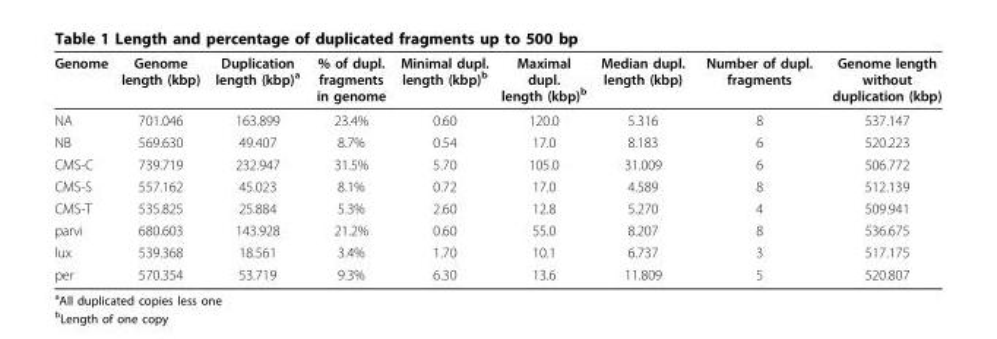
<table><thead><tr><td>Genome</td><td>Genome length (kbp)</td><td>Duplication length (kbp)<sup>a</sup></td><td>% of dupl. fragments in genome</td><td>Minimal dupl. length (kbp)<sup>b</sup></td><td>Maximal dupl. length (kbp)<sup>b</sup></td><td>Median dupl. length (kbp)</td><td>Number of dupl. fragments</td><td>Genome length without duplication (kbp)</td></tr></thead><tbody><tr><td>NA</td><td>701.046</td><td>163.899</td><td>23.4%</td><td>0.60</td><td>120.0</td><td>5.316</td><td>8</td><td>537.147</td></tr><tr><td>NB</td><td>569.630</td><td>49.407</td><td>8.7%</td><td>0.54</td><td>17.0</td><td>8.183</td><td>6</td><td>520.223</td></tr><tr><td>CMS-C</td><td>739.719</td><td>232.947</td><td>31.5%</td><td>5.70</td><td>105.0</td><td>31.009</td><td>6</td><td>506.772</td></tr><tr><td>CMS-S</td><td>557.162</td><td>45.023</td><td>8.1%</td><td>0.72</td><td>17.0</td><td>4.589</td><td>8</td><td>512.139</td></tr><tr><td>CMS-T</td><td>535.825</td><td>25.884</td><td>5.3%</td><td>2.60</td><td>12.8</td><td>5.270</td><td>4</td><td>509.941</td></tr><tr><td>parvi</td><td>680.603</td><td>143.928</td><td>21.2%</td><td>0.60</td><td>55.0</td><td>8.207</td><td>8</td><td>536.675</td></tr><tr><td>lux</td><td>539.368</td><td>18.561</td><td>3.4%</td><td>1.70</td><td>10.1</td><td>6.737</td><td>3</td><td>517.175</td></tr><tr><td>per</td><td>570.354</td><td>53.719</td><td>9.3%</td><td>6.30</td><td>13.6</td><td>11.809</td><td>5</td><td>520.807</td></tr></tbody></table>